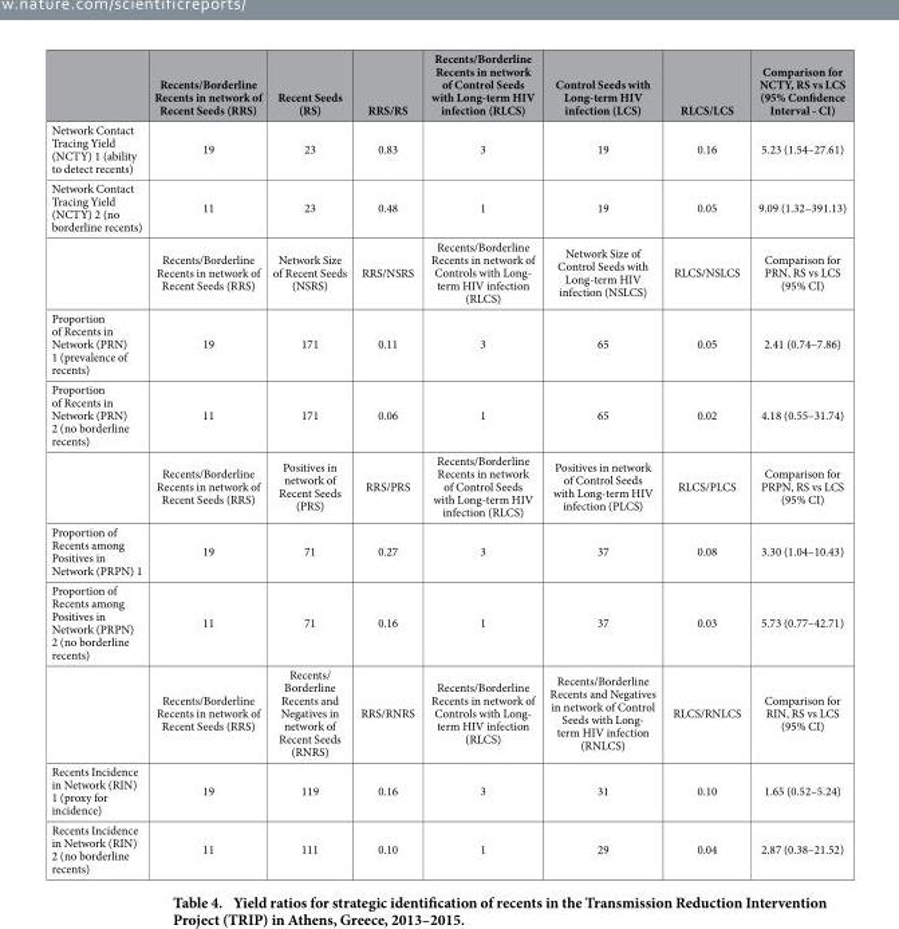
<table><thead><tr><td></td><td>Recents/Borderline Recents in network of Recent Seeds (RRS)</td><td>Recent Seeds (RS)</td><td>RRS/RS</td><td>Recents/Borderline Recents in network of Control Seeds with Long-term HIV infection (RLCS)</td><td>Control Seeds with Long-term HIV infection (LCS)</td><td>RLCS/LCS</td><td>Comparison for NCTY, RS vs LCS (95% Confidence Interval - CI)</td></tr></thead><tbody><tr><td>Network Contact Tracing Yield (NCTY) 1 (ability to detect recents)</td><td>19</td><td>23</td><td>0.83</td><td>3</td><td>19</td><td>0.16</td><td>5.23 (1.54–27.61)</td></tr><tr><td rowspan="2">Network Contact Tracing Yield (NCTY) 2 (no borderline recents)</td><td>11</td><td>23</td><td>0.48</td><td>1</td><td>19</td><td>0.05</td><td>9.09 (1.32–391.13)</td></tr><tr><td>Recents/Borderline Recents in network of Recent Seeds (RRS)</td><td>Network Size of Recent Seeds (NSRS)</td><td>RRS/NSRS</td><td>Recents/Borderline Recents in network of Controls with Long- term HIV infection (RLCS)</td><td>Network Size of Control Seeds with Long-term HIV infection (NSLCS)</td><td>RLCS/NSLCS</td><td>Comparison for PRN, RS vs LCS (95% CI)</td></tr><tr><td>Proportion of Recents in Network (PRN) 1 (prevalence of recents)</td><td>19</td><td>171</td><td>0.11</td><td>3</td><td>65</td><td>0.05</td><td>2.41 (0.74–7.86)</td></tr><tr><td rowspan="2">Proportion of Recents in Network (PRN) 2 (no borderline recents)</td><td>11</td><td>171</td><td>0.06</td><td>1</td><td>65</td><td>0.02</td><td>4.18 (0.55–31.74)</td></tr><tr><td>Recents/Borderline Recents in network of Recent Seeds (RRS)</td><td>Positives in network of Recent Seeds (PRS)</td><td>RRS/PRS</td><td>Recents/Borderline Recents in network of Control Seeds with Long-term HIV infection (RLCS)</td><td>Positives in network of Control Seeds with Long-term HIV infection (PLCS)</td><td>RLCS/PLCS</td><td>Comparison for PRPN, RS vs LCS (95% CI)</td></tr><tr><td>Proportion of Recents among Positives in Network (PRPN) 1</td><td>19</td><td>71</td><td>0.27</td><td>3</td><td>37</td><td>0.08</td><td>3.30 (1.04–10.43)</td></tr><tr><td rowspan="2">Proportion of Recents among Positives in Network (PRPN) 2 (no borderline recents)</td><td>11</td><td>71</td><td>0.16</td><td>1</td><td>37</td><td>0.03</td><td>5.73 (0.77–42.71)</td></tr><tr><td>Recents/Borderline Recents in network of Recent Seeds (RRS)</td><td>Recents/ Borderline Recents and Negatives in network of Recent Seeds (RNRS)</td><td>RRS/RNRS</td><td>Recents/Borderline Recents in network of Controls with Long- term HIV infection (RLCS)</td><td>Recents/Borderline Recents and Negatives in network of Control Seeds with Long- term HIV infection (RNLCS)</td><td>RLCS/RNLCS</td><td>Comparison for RIN, RS vs LCS (95% CI)</td></tr><tr><td>Recents Incidence in Network (RIN) 1 (proxy for incidence)</td><td>19</td><td>119</td><td>0.16</td><td>3</td><td>31</td><td>0.10</td><td>1.65 (0.52–5.24)</td></tr><tr><td>Recents Incidence in Network (RIN) 2 (no borderline recents)</td><td>11</td><td>111</td><td>0.10</td><td>1</td><td>29</td><td>0.04</td><td>2.87 (0.38–21.52)</td></tr></tbody></table>